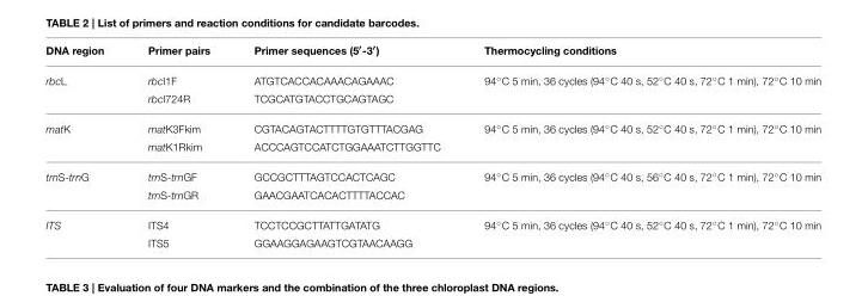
<table><thead><tr><td>DNA region</td><td>Primer pairs</td><td>Primer sequences (5′-3′)</td><td>Thermocycling conditions</td></tr></thead><tbody><tr><td rowspan="2">rbcL</td><td>rbcl1F</td><td>ATGTCACCACAAACAGAAAC</td><td>94◦C 5 min, 36 cycles (94◦C 40 s, 52◦C 40 s, 72◦C 1 min), 72◦C 10 min</td></tr><tr><td>rbcl724R</td><td>TCGCATGTACCTGCAGTAGC</td><td></td></tr><tr><td rowspan="2">matK</td><td>matK3Fkim</td><td>CGTACAGTACTTTTGTGTTTACGAG</td><td>94◦C 5 min, 36 cycles (94◦C 40 s, 52◦C 40 s, 72◦C 1 min), 72◦C 10 min</td></tr><tr><td>matK1Rkim</td><td>ACCCAGTCCATCTGGAAATCTTGGTTC</td><td></td></tr><tr><td rowspan="2">trnS-trnG</td><td>trnS-trnGF</td><td>GCCGCTTTAGTCCACTCAGC</td><td>94◦C 5 min, 36 cycles (94◦C 40 s, 56◦C 40 s, 72◦C 1 min), 72◦C 10 min</td></tr><tr><td>trnS-trnGR</td><td>GAACGAATCACACTTTTACCAC</td><td></td></tr><tr><td rowspan="2">ITS</td><td>ITS4</td><td>TCCTCCGCTTATTGATATG</td><td>94◦C 5 min, 36 cycles (94◦C 40 s, 52◦C 40 s, 72◦C 1 min), 72◦C 10 min</td></tr><tr><td>ITS5</td><td>GGAAGGAGAAGTCGTAACAAGG</td><td></td></tr></tbody></table>